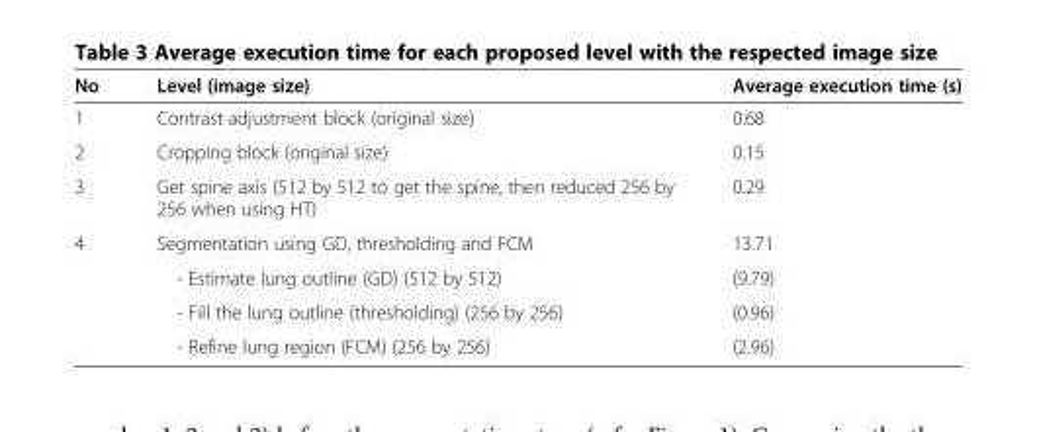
<table><thead><tr><td>No</td><td>Level (image size)</td><td>Average execution time (s)</td></tr></thead><tbody><tr><td>1</td><td>Contrast adjustment block (original size)</td><td>0.68</td></tr><tr><td>2</td><td>Cropping block (original size)</td><td>0.15</td></tr><tr><td>3</td><td>Get spine axis (512 by 512 to get the spine, then reduced 256 by 256 when using HT)</td><td>0.29</td></tr><tr><td rowspan="4">4</td><td>Segmentation using GD, thresholding and FCM</td><td>13.71</td></tr><tr><td>- Estimate lung outline (GD) (512 by 512)</td><td>(9.79)</td></tr><tr><td>- Fill the lung outline (thresholding) (256 by 256)</td><td>(0.96)</td></tr><tr><td>- Refine lung region (FCM) (256 by 256)</td><td>(2.96)</td></tr></tbody></table>